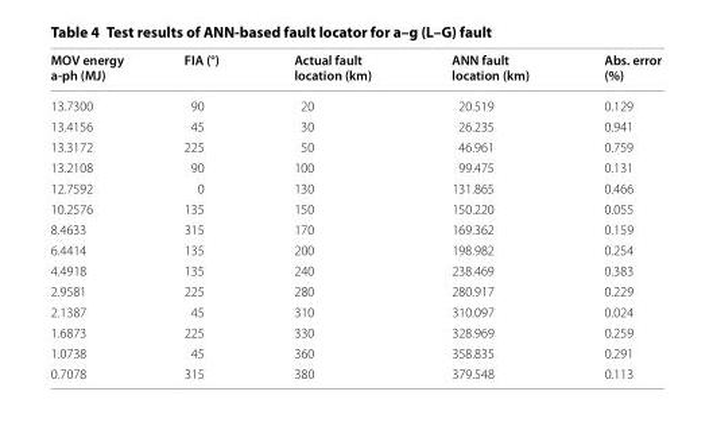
<table><thead><tr><td>MOV energy a-ph (MJ)</td><td>FIA (°)</td><td>Actual fault location (km)</td><td>ANN fault location (km)</td><td>Abs. error (%)</td></tr></thead><tbody><tr><td>13.7300</td><td>90</td><td>20</td><td>20.519</td><td>0.129</td></tr><tr><td>13.4156</td><td>45</td><td>30</td><td>26.235</td><td>0.941</td></tr><tr><td>13.3172</td><td>225</td><td>50</td><td>46.961</td><td>0.759</td></tr><tr><td>13.2108</td><td>90</td><td>100</td><td>99.475</td><td>0.131</td></tr><tr><td>12.7592</td><td>0</td><td>130</td><td>131.865</td><td>0.466</td></tr><tr><td>10.2576</td><td>135</td><td>150</td><td>150.220</td><td>0.055</td></tr><tr><td>8.4633</td><td>315</td><td>170</td><td>169.362</td><td>0.159</td></tr><tr><td>6.4414</td><td>135</td><td>200</td><td>198.982</td><td>0.254</td></tr><tr><td>4.4918</td><td>135</td><td>240</td><td>238.469</td><td>0.383</td></tr><tr><td>2.9581</td><td>225</td><td>280</td><td>280.917</td><td>0.229</td></tr><tr><td>2.1387</td><td>45</td><td>310</td><td>310.097</td><td>0.024</td></tr><tr><td>1.6873</td><td>225</td><td>330</td><td>328.969</td><td>0.259</td></tr><tr><td>1.0738</td><td>45</td><td>360</td><td>358.835</td><td>0.291</td></tr><tr><td>0.7078</td><td>315</td><td>380</td><td>379.548</td><td>0.113</td></tr></tbody></table>